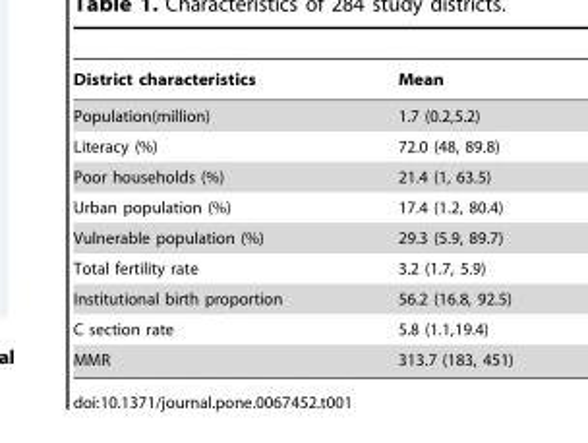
<table><thead><tr><td>District characteristics</td><td>Mean</td></tr></thead><tbody><tr><td>Population(million)</td><td>1.7 (0.2,5.2)</td></tr><tr><td>Literacy (%)</td><td>72.0 (48, 89.8)</td></tr><tr><td>Poor households (%)</td><td>21.4 (1, 63.5)</td></tr><tr><td>Urban population (%)</td><td>17.4 (1.2, 80.4)</td></tr><tr><td>Vulnerable population (%)</td><td>29.3 (5.9, 89.7)</td></tr><tr><td>Total fertility rate</td><td>3.2 (1.7, 5.9)</td></tr><tr><td>Institutional birth proportion</td><td>56.2 (16.8, 92.5)</td></tr><tr><td>C section rate</td><td>5.8 (1.1,19.4)</td></tr><tr><td>MMR</td><td>313.7 (183, 451)</td></tr></tbody></table>